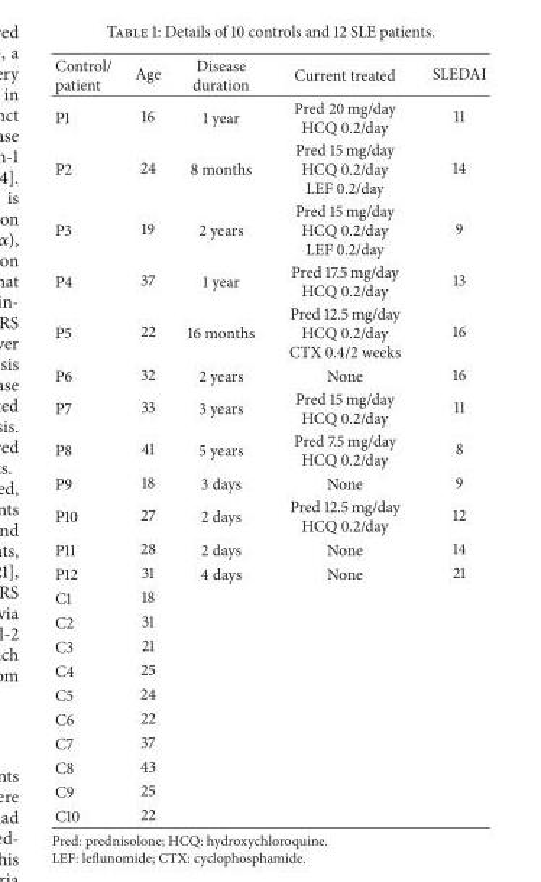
<table><thead><tr><td>Control/ patient</td><td>Age</td><td>Disease duration</td><td>Current treated</td><td>SLEDAI</td></tr></thead><tbody><tr><td>P1</td><td>16</td><td>1 year</td><td>Pred 20 mg/day HCQ 0.2/day</td><td>11</td></tr><tr><td>P2</td><td>24</td><td>8 months</td><td>Pred 15 mg/day HCQ 0.2/day LEF 0.2/day</td><td>14</td></tr><tr><td>P3</td><td>19</td><td>2 years</td><td>Pred 15 mg/day HCQ 0.2/day LEF 0.2/day</td><td>9</td></tr><tr><td>P4</td><td>37</td><td>1 year</td><td>Pred 17.5 mg/day HCQ 0.2/day</td><td>13</td></tr><tr><td>P5</td><td>22</td><td>16 months</td><td>Pred 12.5 mg/day HCQ 0.2/day CTX 0.4/2 weeks</td><td>16</td></tr><tr><td>P6</td><td>32</td><td>2 years</td><td>None</td><td>16</td></tr><tr><td>P7</td><td>33</td><td>3 years</td><td>Pred 15 mg/day HCQ 0.2/day</td><td>11</td></tr><tr><td>P8</td><td>41</td><td>5 years</td><td>Pred 7.5 mg/day HCQ 0.2/day</td><td>8</td></tr><tr><td>P9</td><td>18</td><td>3 days</td><td>None</td><td>9</td></tr><tr><td>P10</td><td>27</td><td>2 days</td><td>Pred 12.5 mg/day HCQ 0.2/day</td><td>12</td></tr><tr><td>P11</td><td>28</td><td>2 days</td><td>None</td><td>14</td></tr><tr><td>P12</td><td>31</td><td>4 days</td><td>None</td><td>21</td></tr><tr><td>C1</td><td>18</td><td></td><td></td><td></td></tr><tr><td>C2</td><td>31</td><td></td><td></td><td></td></tr><tr><td>C3</td><td>21</td><td></td><td></td><td></td></tr><tr><td>C4</td><td>25</td><td></td><td></td><td></td></tr><tr><td>C5</td><td>24</td><td></td><td></td><td></td></tr><tr><td>C6</td><td>22</td><td></td><td></td><td></td></tr><tr><td>C7</td><td>37</td><td></td><td></td><td></td></tr><tr><td>C8</td><td>43</td><td></td><td></td><td></td></tr><tr><td>C9</td><td>25</td><td></td><td></td><td></td></tr><tr><td>C10</td><td>22</td><td></td><td></td><td></td></tr></tbody></table>